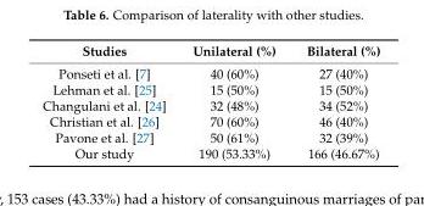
<table><thead><tr><td>Studies</td><td>Unilateral (%)</td><td>Bilateral (%)</td></tr></thead><tbody><tr><td>Ponseti et al. [7]</td><td>40 (60%)</td><td>27 (40%)</td></tr><tr><td>Lehman et al. [25]</td><td>15 (50%)</td><td>15 (50%)</td></tr><tr><td>Changulani et al. [24]</td><td>32 (48%)</td><td>34 (52%)</td></tr><tr><td>Christian et al. [26]</td><td>70 (60%)</td><td>46 (40%)</td></tr><tr><td>Pavone et al. [27]</td><td>50 (61%)</td><td>32 (39%)</td></tr><tr><td>Our study</td><td>190 (53.33%)</td><td>166 (46.67%)</td></tr></tbody></table>